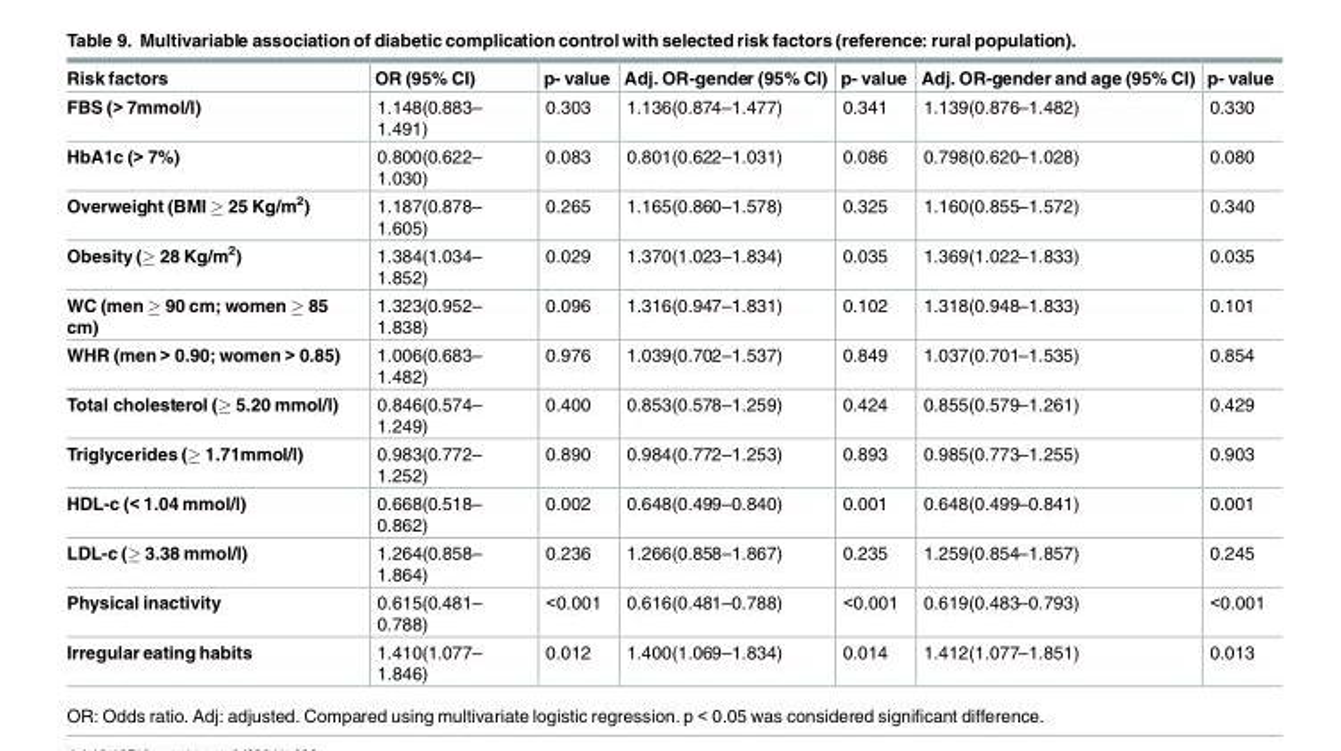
<table><thead><tr><td>Risk factors</td><td>OR (95% CI)</td><td>p- value</td><td>Adj. OR-gender (95% CI)</td><td>p- value</td><td>Adj. OR-gender and age (95% CI)</td><td>p- value</td></tr></thead><tbody><tr><td>FBS (&gt; 7mmol/l)</td><td>1.148(0.883– 1.491)</td><td>0.303</td><td>1.136(0.874–1.477)</td><td>0.341</td><td>1.139(0.876–1.482)</td><td>0.330</td></tr><tr><td>HbA1c (&gt; 7%)</td><td>0.800(0.622– 1.030)</td><td>0.083</td><td>0.801(0.622–1.031)</td><td>0.086</td><td>0.798(0.620–1.028)</td><td>0.080</td></tr><tr><td>Overweight (BMI ≥ 25 Kg/m<sup>2</sup>)</td><td>1.187(0.878– 1.605)</td><td>0.265</td><td>1.165(0.860–1.578)</td><td>0.325</td><td>1.160(0.855–1.572)</td><td>0.340</td></tr><tr><td>Obesity (≥ 28 Kg/m<sup>2</sup>)</td><td>1.384(1.034– 1.852)</td><td>0.029</td><td>1.370(1.023–1.834)</td><td>0.035</td><td>1.369(1.022–1.833)</td><td>0.035</td></tr><tr><td>WC (men ≥ 90 cm; women ≥ 85 cm)</td><td>1.323(0.952– 1.838)</td><td>0.096</td><td>1.316(0.947–1.831)</td><td>0.102</td><td>1.318(0.948–1.833)</td><td>0.101</td></tr><tr><td>WHR (men &gt; 0.90; women &gt; 0.85)</td><td>1.006(0.683– 1.482)</td><td>0.976</td><td>1.039(0.702–1.537)</td><td>0.849</td><td>1.037(0.701–1.535)</td><td>0.854</td></tr><tr><td>Total cholesterol (≥ 5.20 mmol/l)</td><td>0.846(0.574– 1.249)</td><td>0.400</td><td>0.853(0.578–1.259)</td><td>0.424</td><td>0.855(0.579–1.261)</td><td>0.429</td></tr><tr><td>Triglycerides (≥ 1.71mmol/l)</td><td>0.983(0.772– 1.252)</td><td>0.890</td><td>0.984(0.772–1.253)</td><td>0.893</td><td>0.985(0.773–1.255)</td><td>0.903</td></tr><tr><td>HDL-c (&lt; 1.04 mmol/l)</td><td>0.668(0.518– 0.862)</td><td>0.002</td><td>0.648(0.499–0.840)</td><td>0.001</td><td>0.648(0.499–0.841)</td><td>0.001</td></tr><tr><td>LDL-c (≥ 3.38 mmol/l)</td><td>1.264(0.858– 1.864)</td><td>0.236</td><td>1.266(0.858–1.867)</td><td>0.235</td><td>1.259(0.854–1.857)</td><td>0.245</td></tr><tr><td>Physical inactivity</td><td>0.615(0.481– 0.788)</td><td>&lt;0.001</td><td>0.616(0.481–0.788)</td><td>&lt;0.001</td><td>0.619(0.483–0.793)</td><td>&lt;0.001</td></tr><tr><td>Irregular eating habits</td><td>1.410(1.077– 1.846)</td><td>0.012</td><td>1.400(1.069–1.834)</td><td>0.014</td><td>1.412(1.077–1.851)</td><td>0.013</td></tr></tbody></table>